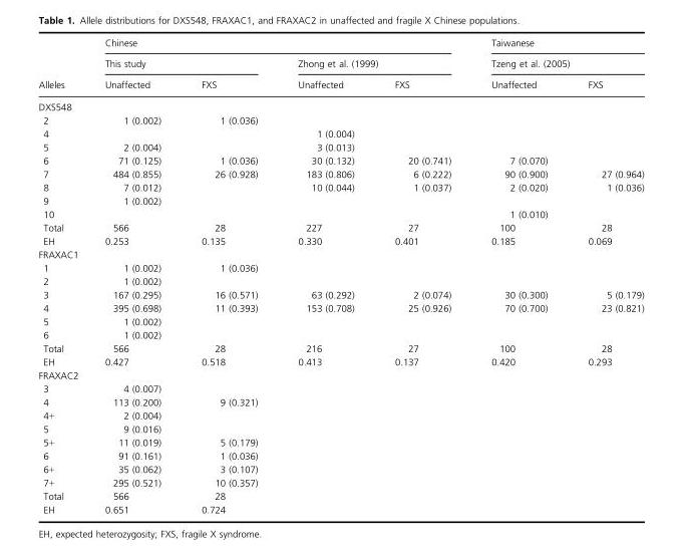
<table><thead><tr><td rowspan="3">Alleles</td><td colspan="4">Chinese</td><td rowspan="2" colspan="2">Taiwanese Tzeng et al. (2005)</td></tr><tr><td colspan="2">This study</td><td colspan="2">Zhong et al. (1999)</td></tr><tr><td>Unaffected</td><td>FXS</td><td>Unaffected</td><td>FXS</td><td>Unaffected</td><td>FXS</td></tr></thead><tbody><tr><td colspan="7">DXS548</td></tr><tr><td>2</td><td>1 (0.002)</td><td>1 (0.036)</td><td></td><td></td><td></td><td></td></tr><tr><td>4</td><td></td><td></td><td>1 (0.004)</td><td></td><td></td><td></td></tr><tr><td>5</td><td>2 (0.004)</td><td></td><td>3 (0.013)</td><td></td><td></td><td></td></tr><tr><td>6</td><td>71 (0.125)</td><td>1 (0.036)</td><td>30 (0.132)</td><td>20 (0.741)</td><td>7 (0.070)</td><td></td></tr><tr><td>7</td><td>484 (0.855)</td><td>26 (0.928)</td><td>183 (0.806)</td><td>6 (0.222)</td><td>90 (0.900)</td><td>27 (0.964)</td></tr><tr><td>8</td><td>7 (0.012)</td><td></td><td>10 (0.044)</td><td>1 (0.037)</td><td>2 (0.020)</td><td>1 (0.036)</td></tr><tr><td>9</td><td>1 (0.002)</td><td></td><td></td><td></td><td></td><td></td></tr><tr><td>10</td><td></td><td></td><td></td><td></td><td>1 (0.010)</td><td></td></tr><tr><td>Total</td><td>566</td><td>28</td><td>227</td><td>27</td><td>100</td><td>28</td></tr><tr><td>EH</td><td>0.253</td><td>0.135</td><td>0.330</td><td>0.401</td><td>0.185</td><td>0.069</td></tr><tr><td colspan="7">FRAXAC1</td></tr><tr><td>1</td><td>1 (0.002)</td><td>1 (0.036)</td><td></td><td></td><td></td><td></td></tr><tr><td>2</td><td>1 (0.002)</td><td></td><td></td><td></td><td></td><td></td></tr><tr><td>3</td><td>167 (0.295)</td><td>16 (0.571)</td><td>63 (0.292)</td><td>2 (0.074)</td><td>30 (0.300)</td><td>5 (0.179)</td></tr><tr><td>4</td><td>395 (0.698)</td><td>11 (0.393)</td><td>153 (0.708)</td><td>25 (0.926)</td><td>70 (0.700)</td><td>23 (0.821)</td></tr><tr><td>5</td><td>1 (0.002)</td><td></td><td></td><td></td><td></td><td></td></tr><tr><td>6</td><td>1 (0.002)</td><td></td><td></td><td></td><td></td><td></td></tr><tr><td>Total</td><td>566</td><td>28</td><td>216</td><td>27</td><td>100</td><td>28</td></tr><tr><td>EH</td><td>0.427</td><td>0.518</td><td>0.413</td><td>0.137</td><td>0.420</td><td>0.293</td></tr><tr><td colspan="7">FRAXAC2</td></tr><tr><td>3</td><td>4 (0.007)</td><td></td><td></td><td></td><td></td><td></td></tr><tr><td>4</td><td>113 (0.200)</td><td>9 (0.321)</td><td></td><td></td><td></td><td></td></tr><tr><td>4+</td><td>2 (0.004)</td><td></td><td></td><td></td><td></td><td></td></tr><tr><td>5</td><td>9 (0.016)</td><td></td><td></td><td></td><td></td><td></td></tr><tr><td>5+</td><td>11 (0.019)</td><td>5 (0.179)</td><td></td><td></td><td></td><td></td></tr><tr><td>6</td><td>91 (0.161)</td><td>1 (0.036)</td><td></td><td></td><td></td><td></td></tr><tr><td>6+</td><td>35 (0.062)</td><td>3 (0.107)</td><td></td><td></td><td></td><td></td></tr><tr><td>7+</td><td>295 (0.521)</td><td>10 (0.357)</td><td></td><td></td><td></td><td></td></tr><tr><td>Total</td><td>566</td><td>28</td><td></td><td></td><td></td><td></td></tr><tr><td>EH</td><td>0.651</td><td>0.724</td><td></td><td></td><td></td><td></td></tr></tbody></table>